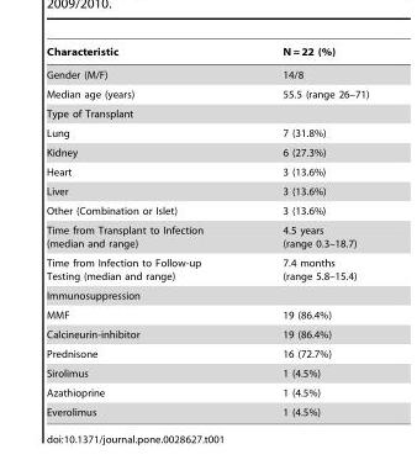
<table><thead><tr><td>Characteristic</td><td>N = 22 (%)</td></tr></thead><tbody><tr><td>Gender (M/F)</td><td>14/8</td></tr><tr><td>Median age (years)</td><td>55.5 (range 26–71)</td></tr><tr><td colspan="2">Type of Transplant</td></tr><tr><td>Lung</td><td>7 (31.8%)</td></tr><tr><td>Kidney</td><td>6 (27.3%)</td></tr><tr><td>Heart</td><td>3 (13.6%)</td></tr><tr><td>Liver</td><td>3 (13.6%)</td></tr><tr><td>Other (Combination or Islet)</td><td>3 (13.6%)</td></tr><tr><td>Time from Transplant to Infection (median and range)</td><td>4.5 years (range 0.3–18.7)</td></tr><tr><td>Time from Infection to Follow-up Testing (median and range)</td><td>7.4 months (range 5.8–15.4)</td></tr><tr><td colspan="2">Immunosuppression</td></tr><tr><td>MMF</td><td>19 (86.4%)</td></tr><tr><td>Calcineurin-inhibitor</td><td>19 (86.4%)</td></tr><tr><td>Prednisone</td><td>16 (72.7%)</td></tr><tr><td>Sirolimus</td><td>1 (4.5%)</td></tr><tr><td>Azathioprine</td><td>1 (4.5%)</td></tr><tr><td>Everolimus</td><td>1 (4.5%)</td></tr></tbody></table>